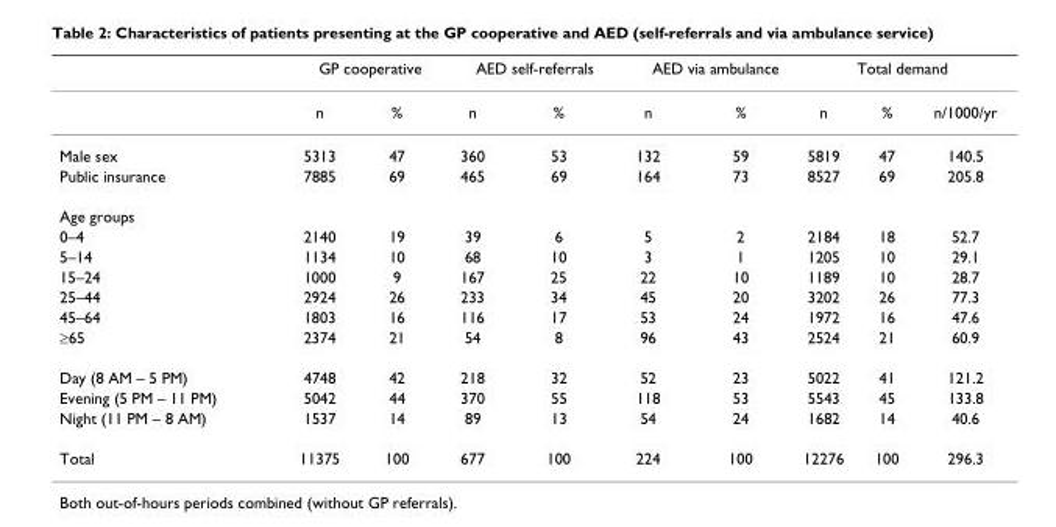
<table><thead><tr><td rowspan="2"></td><td colspan="2">GP cooperative</td><td colspan="2">AED self-referrals</td><td colspan="2">AED via ambulance</td><td colspan="3">Total demand</td></tr><tr><td>n</td><td>%</td><td>n</td><td>%</td><td>n</td><td>%</td><td>n</td><td>%</td><td>n/1000/yr</td></tr></thead><tbody><tr><td>Male sex</td><td>5313</td><td>47</td><td>360</td><td>53</td><td>132</td><td>59</td><td>5819</td><td>47</td><td>140.5</td></tr><tr><td>Public insurance</td><td>7885</td><td>69</td><td>465</td><td>69</td><td>164</td><td>73</td><td>8527</td><td>69</td><td>205.8</td></tr><tr><td colspan="10">Age groups</td></tr><tr><td>0–4</td><td>2140</td><td>19</td><td>39</td><td>6</td><td>5</td><td>2</td><td>2184</td><td>18</td><td>52.7</td></tr><tr><td>5–14</td><td>1134</td><td>10</td><td>68</td><td>10</td><td>3</td><td>1</td><td>1205</td><td>10</td><td>29.1</td></tr><tr><td>15–24</td><td>1000</td><td>9</td><td>167</td><td>25</td><td>22</td><td>10</td><td>1189</td><td>10</td><td>28.7</td></tr><tr><td>25–44</td><td>2924</td><td>26</td><td>233</td><td>34</td><td>45</td><td>20</td><td>3202</td><td>26</td><td>77.3</td></tr><tr><td>45–64</td><td>1803</td><td>16</td><td>116</td><td>17</td><td>53</td><td>24</td><td>1972</td><td>16</td><td>47.6</td></tr><tr><td>≥65</td><td>2374</td><td>21</td><td>54</td><td>8</td><td>96</td><td>43</td><td>2524</td><td>21</td><td>60.9</td></tr><tr><td>Day (8 AM – 5 PM)</td><td>4748</td><td>42</td><td>218</td><td>32</td><td>52</td><td>23</td><td>5022</td><td>41</td><td>121.2</td></tr><tr><td>Evening (5 PM – 11 PM)</td><td>5042</td><td>44</td><td>370</td><td>55</td><td>118</td><td>53</td><td>5543</td><td>45</td><td>133.8</td></tr><tr><td>Night (11 PM – 8 AM)</td><td>1537</td><td>14</td><td>89</td><td>13</td><td>54</td><td>24</td><td>1682</td><td>14</td><td>40.6</td></tr><tr><td>Total</td><td>11375</td><td>100</td><td>677</td><td>100</td><td>224</td><td>100</td><td>12276</td><td>100</td><td>296.3</td></tr></tbody></table>